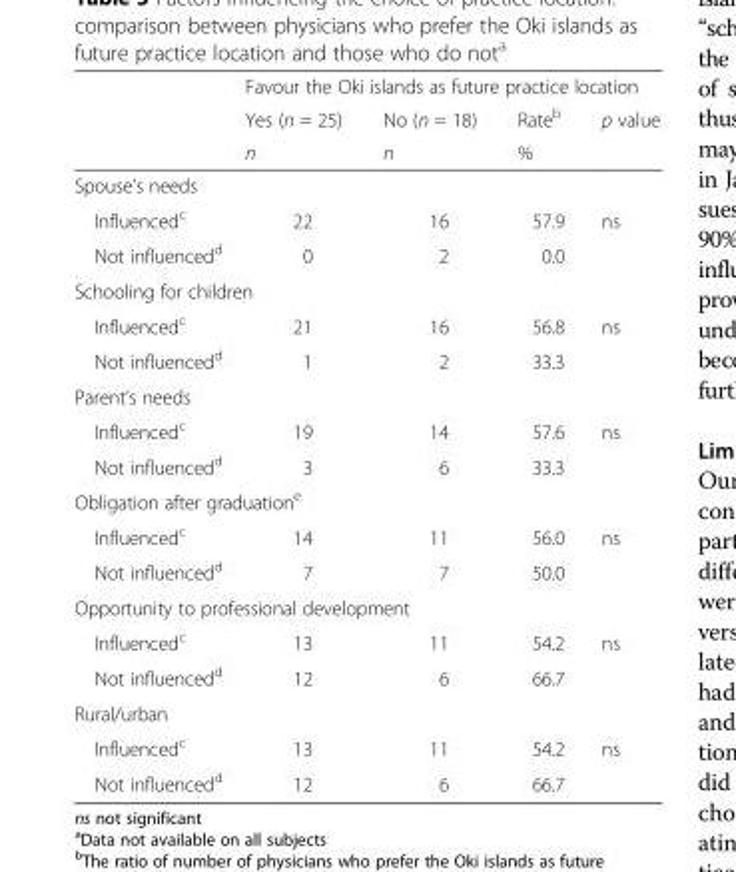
<table><thead><tr><td rowspan="3"></td><td colspan="4">Favour the Oki islands as future practice location</td></tr><tr><td rowspan="2">Yes (n = 25) n</td><td rowspan="2">No (n = 18) n</td><td rowspan="2">Rate<sup>b</sup> %</td><td rowspan="2">p value</td></tr><tr></tr></thead><tbody><tr><td colspan="5">Spouse’s needs</td></tr><tr><td>Influenced<sup>c</sup></td><td>22</td><td>16</td><td>57.9</td><td rowspan="2">ns</td></tr><tr><td>Not influenced<sup>d</sup></td><td>0</td><td>2</td><td>0.0</td></tr><tr><td colspan="5">Schooling for children</td></tr><tr><td>Influenced<sup>c</sup></td><td>21</td><td>16</td><td>56.8</td><td rowspan="2">ns</td></tr><tr><td>Not influenced<sup>d</sup></td><td>1</td><td>2</td><td>33.3</td></tr><tr><td colspan="5">Parent’s needs</td></tr><tr><td>Influenced<sup>c</sup></td><td>19</td><td>14</td><td>57.6</td><td rowspan="2">ns</td></tr><tr><td>Not influenced<sup>d</sup></td><td>3</td><td>6</td><td>33.3</td></tr><tr><td colspan="5">Obligation after graduation<sup>e</sup></td></tr><tr><td>Influenced<sup>c</sup></td><td>14</td><td>11</td><td>56.0</td><td rowspan="2">ns</td></tr><tr><td>Not influenced<sup>d</sup></td><td>7</td><td>7</td><td>50.0</td></tr><tr><td colspan="5">Opportunity to professional development</td></tr><tr><td>Influenced<sup>c</sup></td><td>13</td><td>11</td><td>54.2</td><td rowspan="2">ns</td></tr><tr><td>Not influenced<sup>d</sup></td><td>12</td><td>6</td><td>66.7</td></tr><tr><td colspan="5">Rural/urban</td></tr><tr><td>Influenced<sup>c</sup></td><td>13</td><td>11</td><td>54.2</td><td rowspan="2">ns</td></tr><tr><td>Not influenced<sup>d</sup></td><td>12</td><td>6</td><td>66.7</td></tr></tbody></table>